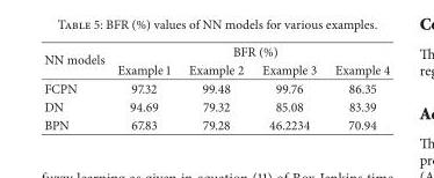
<table><thead><tr><td rowspan="2">NN models</td><td colspan="4">BFR (%)</td></tr><tr><td>Example 1</td><td>Example 2</td><td>Example 3</td><td>Example 4</td></tr></thead><tbody><tr><td>FCPN</td><td>97.32</td><td>99.48</td><td>99.76</td><td>86.35</td></tr><tr><td>DN</td><td>94.69</td><td>79.32</td><td>85.08</td><td>83.39</td></tr><tr><td>BPN</td><td>67.83</td><td>79.28</td><td>46.2234</td><td>70.94</td></tr></tbody></table>